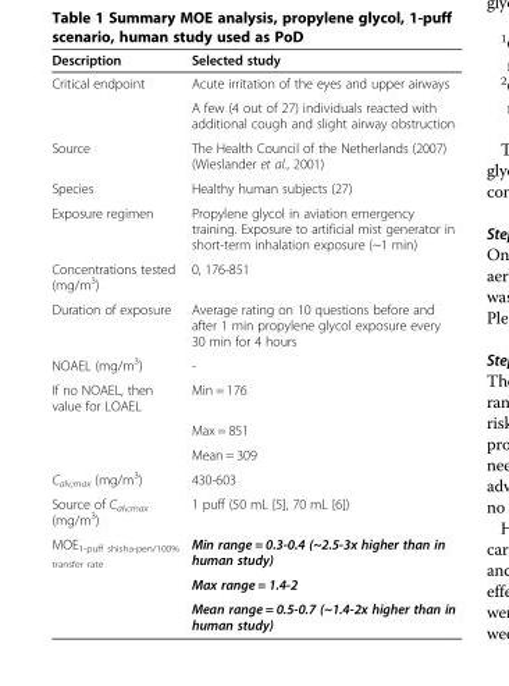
<table><thead><tr><td>Description</td><td>Selected study</td></tr></thead><tbody><tr><td rowspan="2">Critical endpoint</td><td>Acute irritation of the eyes and upper airways</td></tr><tr><td>A few (4 out of 27) individuals reacted with additional cough and slight airway obstruction</td></tr><tr><td>Source</td><td>The Health Council of the Netherlands (2007) (Wieslander et al., 2001)</td></tr><tr><td>Species</td><td>Healthy human subjects (27)</td></tr><tr><td>Exposure regimen</td><td>Propylene glycol in aviation emergency training. Exposure to artificial mist generator in short-term inhalation exposure (~1 min)</td></tr><tr><td>Concentrations tested (mg/m<sup>3</sup>)</td><td>0, 176-851</td></tr><tr><td>Duration of exposure</td><td>Average rating on 10 questions before and after 1 min propylene glycol exposure every 30 min for 4 hours</td></tr><tr><td>NOAEL (mg/m<sup>3</sup>)</td><td>-</td></tr><tr><td rowspan="3">If no NOAEL, then value for LOAEL</td><td>Min = 176</td></tr><tr><td>Max = 851</td></tr><tr><td>Mean = 309</td></tr><tr><td>C<sub>alv;max</sub> (mg/m<sup>3</sup>)</td><td>430-603</td></tr><tr><td>Source of C<sub>alv;max</sub> (mg/m<sup>3</sup>)</td><td>1 puff (50 mL [5], 70 mL [6])</td></tr><tr><td rowspan="3">MOE<sub>1-puff shisha-pen/100% transfer rate</sub></td><td>Min range = 0.3-0.4 (~2.5-3x higher than in human study)</td></tr><tr><td>Max range = 1.4-2</td></tr><tr><td>Mean range = 0.5-0.7 (~1.4-2x higher than in human study)</td></tr></tbody></table>